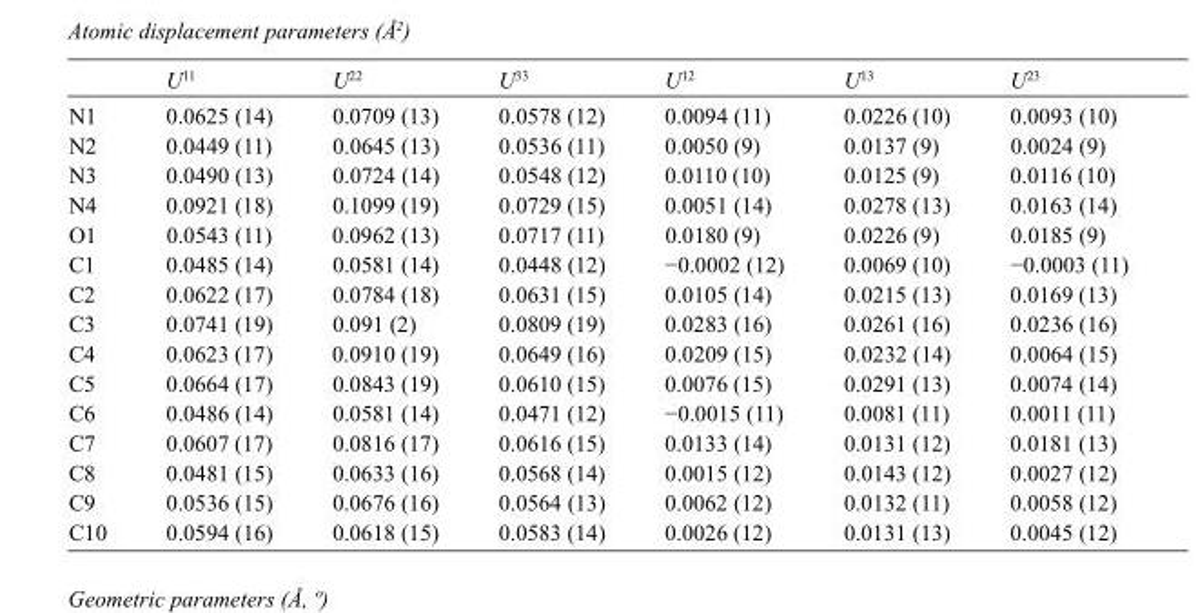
<table><thead><tr><td></td><td>U<sup>11</sup></td><td>U<sup>22</sup></td><td>U<sup>33</sup></td><td>U<sup>12</sup></td><td>U<sup>13</sup></td><td>U<sup>23</sup></td></tr></thead><tbody><tr><td>N1</td><td>0.0625 (14)</td><td>0.0709 (13)</td><td>0.0578 (12)</td><td>0.0094 (11)</td><td>0.0226 (10)</td><td>0.0093 (10)</td></tr><tr><td>N2</td><td>0.0449 (11)</td><td>0.0645 (13)</td><td>0.0536 (11)</td><td>0.0050 (9)</td><td>0.0137 (9)</td><td>0.0024 (9)</td></tr><tr><td>N3</td><td>0.0490 (13)</td><td>0.0724 (14)</td><td>0.0548 (12)</td><td>0.0110 (10)</td><td>0.0125 (9)</td><td>0.0116 (10)</td></tr><tr><td>N4</td><td>0.0921 (18)</td><td>0.1099 (19)</td><td>0.0729 (15)</td><td>0.0051 (14)</td><td>0.0278 (13)</td><td>0.0163 (14)</td></tr><tr><td>O1</td><td>0.0543 (11)</td><td>0.0962 (13)</td><td>0.0717 (11)</td><td>0.0180 (9)</td><td>0.0226 (9)</td><td>0.0185 (9)</td></tr><tr><td>C1</td><td>0.0485 (14)</td><td>0.0581 (14)</td><td>0.0448 (12)</td><td>−0.0002 (12)</td><td>0.0069 (10)</td><td>−0.0003 (11)</td></tr><tr><td>C2</td><td>0.0622 (17)</td><td>0.0784 (18)</td><td>0.0631 (15)</td><td>0.0105 (14)</td><td>0.0215 (13)</td><td>0.0169 (13)</td></tr><tr><td>C3</td><td>0.0741 (19)</td><td>0.091 (2)</td><td>0.0809 (19)</td><td>0.0283 (16)</td><td>0.0261 (16)</td><td>0.0236 (16)</td></tr><tr><td>C4</td><td>0.0623 (17)</td><td>0.0910 (19)</td><td>0.0649 (16)</td><td>0.0209 (15)</td><td>0.0232 (14)</td><td>0.0064 (15)</td></tr><tr><td>C5</td><td>0.0664 (17)</td><td>0.0843 (19)</td><td>0.0610 (15)</td><td>0.0076 (15)</td><td>0.0291 (13)</td><td>0.0074 (14)</td></tr><tr><td>C6</td><td>0.0486 (14)</td><td>0.0581 (14)</td><td>0.0471 (12)</td><td>−0.0015 (11)</td><td>0.0081 (11)</td><td>0.0011 (11)</td></tr><tr><td>C7</td><td>0.0607 (17)</td><td>0.0816 (17)</td><td>0.0616 (15)</td><td>0.0133 (14)</td><td>0.0131 (12)</td><td>0.0181 (13)</td></tr><tr><td>C8</td><td>0.0481 (15)</td><td>0.0633 (16)</td><td>0.0568 (14)</td><td>0.0015 (12)</td><td>0.0143 (12)</td><td>0.0027 (12)</td></tr><tr><td>C9</td><td>0.0536 (15)</td><td>0.0676 (16)</td><td>0.0564 (13)</td><td>0.0062 (12)</td><td>0.0132 (11)</td><td>0.0058 (12)</td></tr><tr><td>C10</td><td>0.0594 (16)</td><td>0.0618 (15)</td><td>0.0583 (14)</td><td>0.0026 (12)</td><td>0.0131 (13)</td><td>0.0045 (12)</td></tr></tbody></table>